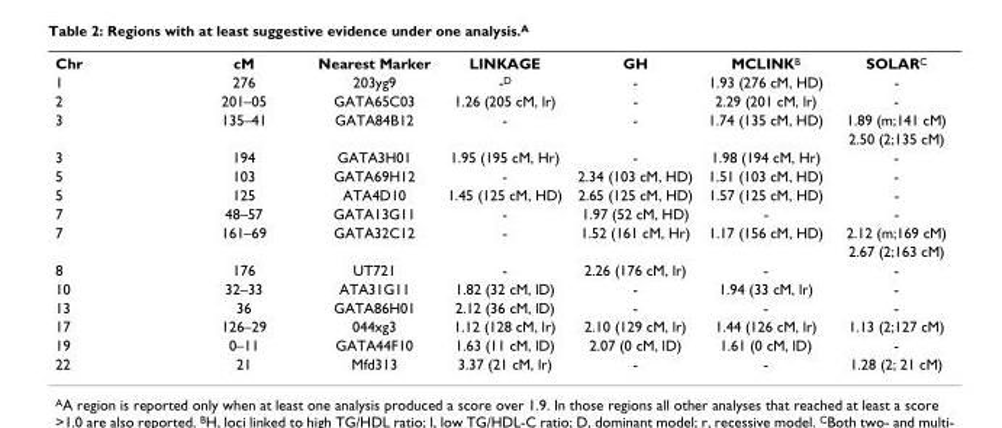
<table><tbody><tr><td>Chr</td><td>cM</td><td>Nearest Marker</td><td>LINKAGE</td><td>GH</td><td>MCLINKB</td><td>SOLARC</td></tr><tr><td>1</td><td>276</td><td>203yg9</td><td>-D</td><td>-</td><td>1.93 (276 cM, HD)</td><td>-</td></tr><tr><td>2</td><td>201–05</td><td>GATA65C03</td><td>1.26 (205 cM, lr)</td><td>-</td><td>2.29 (201 cM, lr)</td><td>-</td></tr><tr><td rowspan="2">3</td><td>135–41</td><td>GATA84B12</td><td>-</td><td>-</td><td>1.74 (135 cM, HD)</td><td>1.89 (m;141 cM)</td></tr><tr><td></td><td></td><td></td><td></td><td></td><td>2.50 (2;135 cM)</td></tr><tr><td>3</td><td>194</td><td>GATA3H01</td><td>1.95 (195 cM, Hr)</td><td>-</td><td>1.98 (194 cM, Hr)</td><td>-</td></tr><tr><td>5</td><td>103</td><td>GATA69H12</td><td>-</td><td>2.34 (103 cM, HD)</td><td>1.51 (103 cM, HD)</td><td>-</td></tr><tr><td>5</td><td>125</td><td>ATA4D10</td><td>1.45 (125 cM, HD)</td><td>2.65 (125 cM, HD)</td><td>1.57 (125 cM, HD)</td><td>-</td></tr><tr><td>7</td><td>48–57</td><td>GATA13G11</td><td>-</td><td>1.97 (52 cM, HD)</td><td>-</td><td>-</td></tr><tr><td rowspan="2">7</td><td>161–69</td><td>GATA32C12</td><td>-</td><td>1.52 (161 cM, Hr)</td><td>1.17 (156 cM, HD)</td><td>2.12 (m;169 cM)</td></tr><tr><td></td><td></td><td></td><td></td><td></td><td>2.67 (2;163 cM)</td></tr><tr><td>8</td><td>176</td><td>UT721</td><td>-</td><td>2.26 (176 cM, lr)</td><td>-</td><td>-</td></tr><tr><td>10</td><td>32–33</td><td>ATA31G11</td><td>1.82 (32 cM, lD)</td><td>-</td><td>1.94 (33 cM, lr)</td><td>-</td></tr><tr><td>13</td><td>36</td><td>GATA86H01</td><td>2.12 (36 cM, lD)</td><td>-</td><td>-</td><td>-</td></tr><tr><td>17</td><td>126–29</td><td>044xg3</td><td>1.12 (128 cM, lr)</td><td>2.10 (129 cM, lr)</td><td>1.44 (126 cM, lr)</td><td>1.13 (2;127 cM)</td></tr><tr><td>19</td><td>0–11</td><td>GATA44F10</td><td>1.63 (11 cM, lD)</td><td>2.07 (0 cM, lD)</td><td>1.61 (0 cM, lD)</td><td>-</td></tr><tr><td>22</td><td>21</td><td>Mfd313</td><td>3.37 (21 cM, lr)</td><td>-</td><td>-</td><td>1.28 (2; 21 cM)</td></tr></tbody></table>